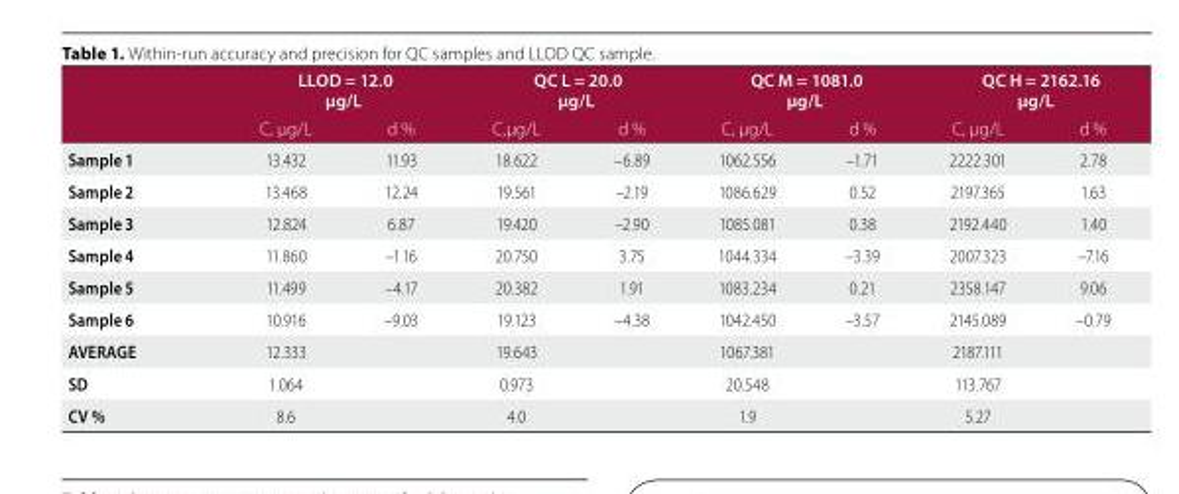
<table><thead><tr><td rowspan="2"></td><td colspan="2">LLOD = 12.0 μg/L</td><td colspan="2">QC L = 20.0 μg/L</td><td colspan="2">QC M = 1081.0 μg/L</td><td colspan="2">QC H = 2162.16 μg/L</td></tr><tr><td>C, μg/L</td><td>d %</td><td>C,μg/L</td><td>d %</td><td>C, μg/L</td><td>d %</td><td>C, μg/L</td><td>d %</td></tr></thead><tbody><tr><td>Sample 1</td><td>13.432</td><td>11.93</td><td>18.622</td><td>–6.89</td><td>1062.556</td><td>–1.71</td><td>2222.301</td><td>2.78</td></tr><tr><td>Sample 2</td><td>13.468</td><td>12.24</td><td>19.561</td><td>–2.19</td><td>1086.629</td><td>0.52</td><td>2197.365</td><td>1.63</td></tr><tr><td>Sample 3</td><td>12.824</td><td>6.87</td><td>19.420</td><td>–2.90</td><td>1085.081</td><td>0.38</td><td>2192.440</td><td>1.40</td></tr><tr><td>Sample 4</td><td>11.860</td><td>–1.16</td><td>20.750</td><td>3.75</td><td>1044.334</td><td>–3.39</td><td>2007.323</td><td>–7.16</td></tr><tr><td>Sample 5</td><td>11.499</td><td>–4.17</td><td>20.382</td><td>1.91</td><td>1083.234</td><td>0.21</td><td>2358.147</td><td>9.06</td></tr><tr><td>Sample 6</td><td>10.916</td><td>–9.03</td><td>19.123</td><td>–4.38</td><td>1042.450</td><td>–3.57</td><td>2145.089</td><td>–0.79</td></tr><tr><td>AVERAGE</td><td>12.333</td><td></td><td>19.643</td><td></td><td>1067.381</td><td></td><td>2187.111</td><td></td></tr><tr><td>SD</td><td>1.064</td><td></td><td>0.973</td><td></td><td>20.548</td><td></td><td>113.767</td><td></td></tr><tr><td>CV %</td><td>8.6</td><td></td><td>4.0</td><td></td><td>1.9</td><td></td><td>5.27</td><td></td></tr></tbody></table>